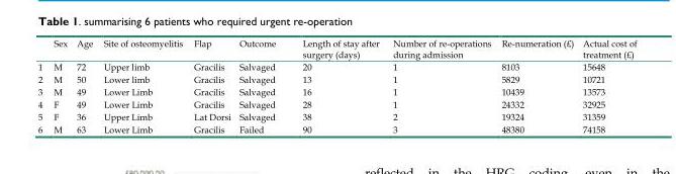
<table><thead><tr><td></td><td>Sex</td><td>Age</td><td>Site of osteomyelitis</td><td>Flap</td><td>Outcome</td><td>Length of stay after surgery (days)</td><td>Number of re-operations during admission</td><td>Re-numeration (£)</td><td>Actual cost of treatment (£)</td></tr></thead><tbody><tr><td>1</td><td>M</td><td>72</td><td>Upper limb</td><td>Gracilis</td><td>Salvaged</td><td>20</td><td>1</td><td>8103</td><td>15648</td></tr><tr><td>2</td><td>M</td><td>50</td><td>Lower limb</td><td>Gracilis</td><td>Salvaged</td><td>13</td><td>1</td><td>5829</td><td>10721</td></tr><tr><td>3</td><td>M</td><td>49</td><td>Lower Limb</td><td>Gracilis</td><td>Salvaged</td><td>16</td><td>1</td><td>10439</td><td>13573</td></tr><tr><td>4</td><td>F</td><td>49</td><td>Lower Limb</td><td>Gracilis</td><td>Salvaged</td><td>28</td><td>1</td><td>24332</td><td>32925</td></tr><tr><td>5</td><td>F</td><td>36</td><td>Upper Limb</td><td>Lat Dorsi</td><td>Salvaged</td><td>38</td><td>2</td><td>19324</td><td>31359</td></tr><tr><td>6</td><td>M</td><td>63</td><td>Lower Limb</td><td>Gracilis</td><td>Failed</td><td>90</td><td>3</td><td>48380</td><td>74158</td></tr></tbody></table>